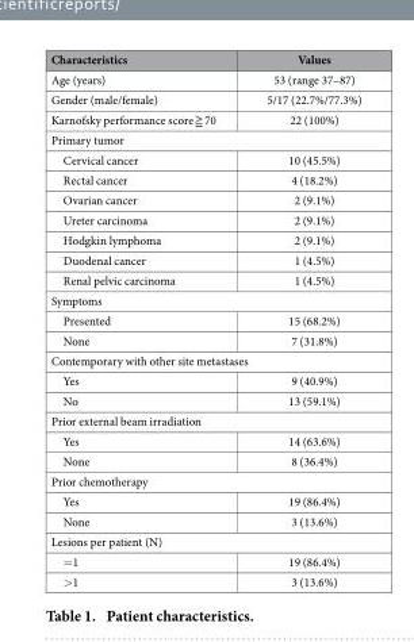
<table><thead><tr><td>Characteristics</td><td>Values</td></tr></thead><tbody><tr><td>Age (years)</td><td>53 (range 37–87)</td></tr><tr><td>Gender (male/female)</td><td>5/17 (22.7%/77.3%)</td></tr><tr><td>Karnofsky performance score ≧ 70</td><td>22 (100%)</td></tr><tr><td colspan="2">Primary tumor</td></tr><tr><td>Cervical cancer</td><td>10 (45.5%)</td></tr><tr><td>Rectal cancer</td><td>4 (18.2%)</td></tr><tr><td>Ovarian cancer</td><td>2 (9.1%)</td></tr><tr><td>Ureter carcinoma</td><td>2 (9.1%)</td></tr><tr><td>Hodgkin lymphoma</td><td>2 (9.1%)</td></tr><tr><td>Duodenal cancer</td><td>1 (4.5%)</td></tr><tr><td>Renal pelvic carcinoma</td><td>1 (4.5%)</td></tr><tr><td colspan="2">Symptoms</td></tr><tr><td>Presented</td><td>15 (68.2%)</td></tr><tr><td>None</td><td>7 (31.8%)</td></tr><tr><td colspan="2">Contemporary with other site metastases</td></tr><tr><td>Yes</td><td>9 (40.9%)</td></tr><tr><td>No</td><td>13 (59.1%)</td></tr><tr><td colspan="2">Prior external beam irradiation</td></tr><tr><td>Yes</td><td>14 (63.6%)</td></tr><tr><td>None</td><td>8 (36.4%)</td></tr><tr><td colspan="2">Prior chemotherapy</td></tr><tr><td>Yes</td><td>19 (86.4%)</td></tr><tr><td>None</td><td>3 (13.6%)</td></tr><tr><td colspan="2">Lesions per patient (N)</td></tr><tr><td>= 1</td><td>19 (86.4%)</td></tr><tr><td>&gt; 1</td><td>3 (13.6%)</td></tr></tbody></table>